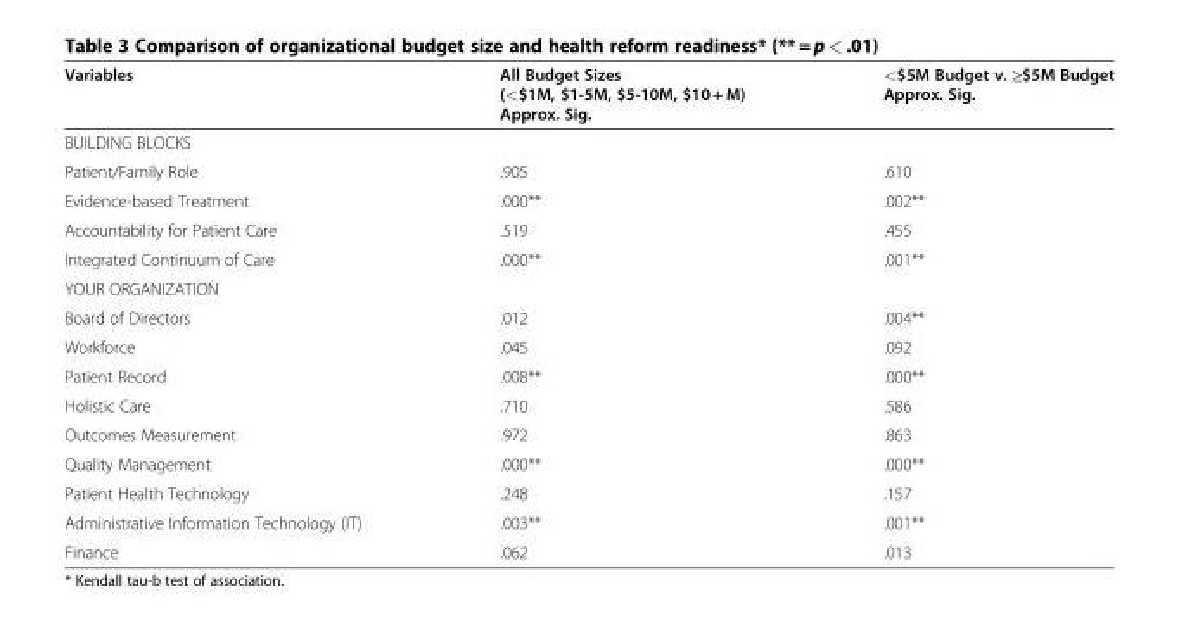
<table><thead><tr><td>Variables</td><td>All Budget Sizes (&lt;$1M, $1-5M, $5-10M, $10 + M) Approx. Sig.</td><td>&lt;$5M Budget v. ≥$5M Budget Approx. Sig.</td></tr></thead><tbody><tr><td colspan="3">BUILDING BLOCKS</td></tr><tr><td>Patient/Family Role</td><td>.905</td><td>.610</td></tr><tr><td>Evidence-based Treatment</td><td>.000**</td><td>.002**</td></tr><tr><td>Accountability for Patient Care</td><td>.519</td><td>.455</td></tr><tr><td>Integrated Continuum of Care</td><td>.000**</td><td>.001**</td></tr><tr><td colspan="3">YOUR ORGANIZATION</td></tr><tr><td>Board of Directors</td><td>.012</td><td>.004**</td></tr><tr><td>Workforce</td><td>.045</td><td>.092</td></tr><tr><td>Patient Record</td><td>.008**</td><td>.000**</td></tr><tr><td>Holistic Care</td><td>.710</td><td>.586</td></tr><tr><td>Outcomes Measurement</td><td>.972</td><td>.863</td></tr><tr><td>Quality Management</td><td>.000**</td><td>.000**</td></tr><tr><td>Patient Health Technology</td><td>.248</td><td>.157</td></tr><tr><td>Administrative Information Technology (IT)</td><td>.003**</td><td>.001**</td></tr><tr><td>Finance</td><td>.062</td><td>.013</td></tr></tbody></table>